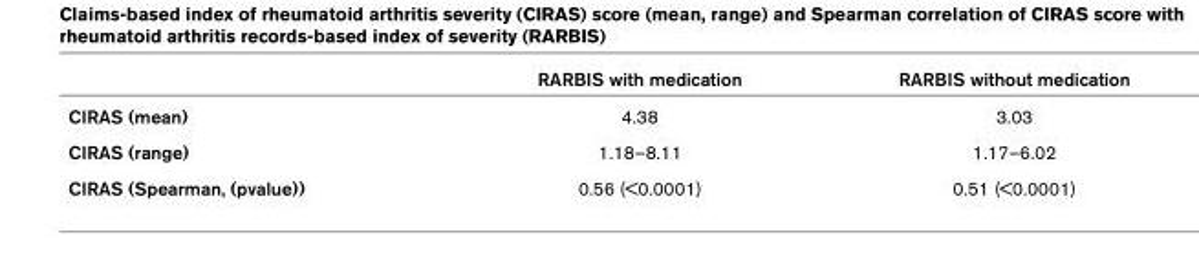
<table><thead><tr><td></td><td>RARBIS with medication</td><td>RARBIS without medication</td></tr></thead><tbody><tr><td>CIRAS (mean)</td><td>4.38</td><td>3.03</td></tr><tr><td>CIRAS (range)</td><td>1.18–8.11</td><td>1.17–6.02</td></tr><tr><td>CIRAS (Spearman, (pvalue))</td><td>0.56 (&lt;0.0001)</td><td>0.51 (&lt;0.0001)</td></tr></tbody></table>